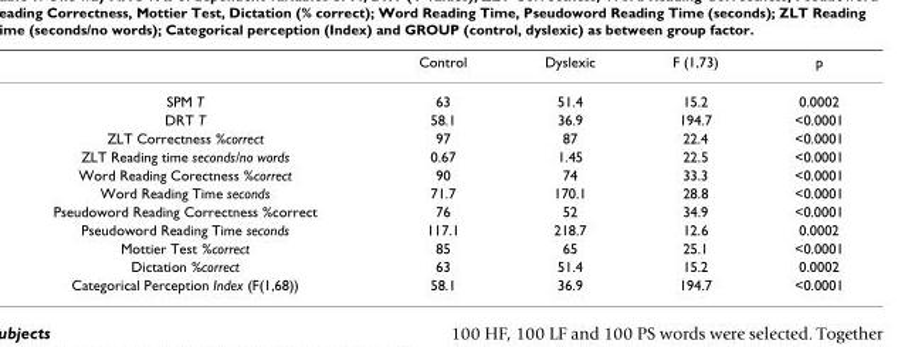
<table><thead><tr><td></td><td>Control</td><td>Dyslexic</td><td>F (1,73)</td><td>p</td></tr></thead><tbody><tr><td>SPM T</td><td>63</td><td>51.4</td><td>15.2</td><td>0.0002</td></tr><tr><td>DRT T</td><td>58.1</td><td>36.9</td><td>194.7</td><td>&lt;0.0001</td></tr><tr><td>ZLT Correctness %correct</td><td>97</td><td>87</td><td>22.4</td><td>&lt;0.0001</td></tr><tr><td>ZLT Reading time seconds/no words</td><td>0.67</td><td>1.45</td><td>22.5</td><td>&lt;0.0001</td></tr><tr><td>Word Reading Corectness %correct</td><td>90</td><td>74</td><td>33.3</td><td>&lt;0.0001</td></tr><tr><td>Word Reading Time seconds</td><td>71.7</td><td>170.1</td><td>28.8</td><td>&lt;0.0001</td></tr><tr><td>Pseudoword Reading Correctness %correct</td><td>76</td><td>52</td><td>34.9</td><td>&lt;0.0001</td></tr><tr><td>Pseudoword Reading Time seconds</td><td>117.1</td><td>218.7</td><td>12.6</td><td>0.0002</td></tr><tr><td>Mottier Test %correct</td><td>85</td><td>65</td><td>25.1</td><td>&lt;0.0001</td></tr><tr><td>Dictation %correct</td><td>63</td><td>51.4</td><td>15.2</td><td>0.0002</td></tr><tr><td>Categorical Perception Index (F(1,68))</td><td>58.1</td><td>36.9</td><td>194.7</td><td>&lt;0.0001</td></tr></tbody></table>